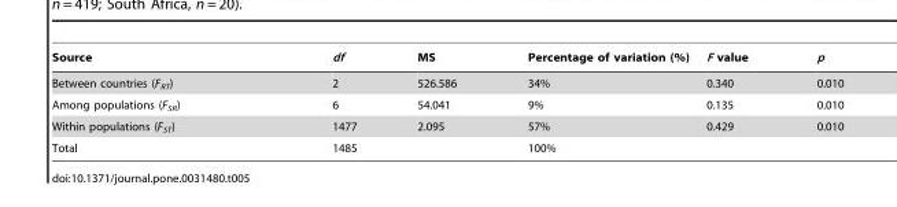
<table><thead><tr><td>Source</td><td>df</td><td>MS</td><td>Percentage of variation (%)</td><td>F value</td><td>p</td></tr></thead><tbody><tr><td>Between countries (F<sub>RT</sub>)</td><td>2</td><td>526.586</td><td>34%</td><td>0.340</td><td>0.010</td></tr><tr><td>Among populations (F<sub>SR</sub>)</td><td>6</td><td>54.041</td><td>9%</td><td>0.135</td><td>0.010</td></tr><tr><td>Within populations (F<sub>ST</sub>)</td><td>1477</td><td>2.095</td><td>57%</td><td>0.429</td><td>0.010</td></tr><tr><td>Total</td><td>1485</td><td></td><td>100%</td><td></td><td></td></tr></tbody></table>